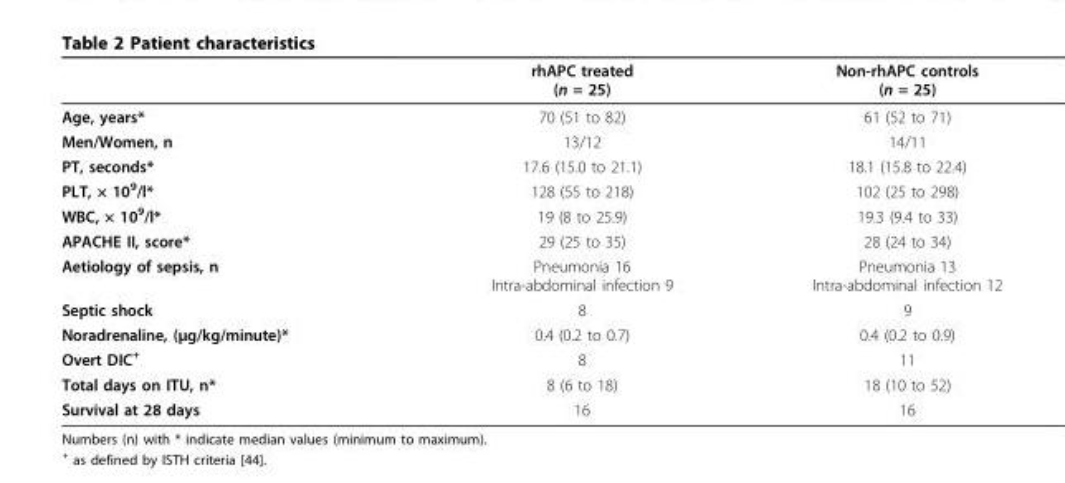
<table><thead><tr><td></td><td>rhAPC treated (n = 25)</td><td>Non-rhAPC controls (n = 25)</td></tr></thead><tbody><tr><td>Age, years*</td><td>70 (51 to 82)</td><td>61 (52 to 71)</td></tr><tr><td>Men/Women, n</td><td>13/12</td><td>14/11</td></tr><tr><td>PT, seconds*</td><td>17.6 (15.0 to 21.1)</td><td>18.1 (15.8 to 22.4)</td></tr><tr><td>PLT, × 10<sup>9</sup>/l*</td><td>128 (55 to 218)</td><td>102 (25 to 298)</td></tr><tr><td>WBC, × 10<sup>9</sup>/l*</td><td>19 (8 to 25.9)</td><td>19.3 (9.4 to 33)</td></tr><tr><td>APACHE II, score*</td><td>29 (25 to 35)</td><td>28 (24 to 34)</td></tr><tr><td>Aetiology of sepsis, n</td><td>Pneumonia 16 Intra-abdominal infection 9</td><td>Pneumonia 13 Intra-abdominal infection 12</td></tr><tr><td>Septic shock</td><td>8</td><td>9</td></tr><tr><td>Noradrenaline, (μg/kg/minute)*</td><td>0.4 (0.2 to 0.7)</td><td>0.4 (0.2 to 0.9)</td></tr><tr><td>Overt DIC<sup>+</sup></td><td>8</td><td>11</td></tr><tr><td>Total days on ITU, n*</td><td>8 (6 to 18)</td><td>18 (10 to 52)</td></tr><tr><td>Survival at 28 days</td><td>16</td><td>16</td></tr></tbody></table>